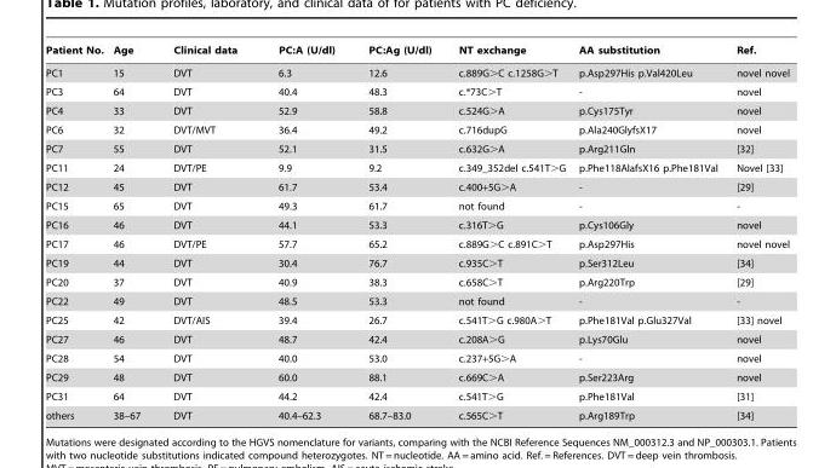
<table><thead><tr><td>Patient No.</td><td>Age</td><td>Clinical data</td><td>PC:A (U/dl)</td><td>PC:Ag (U/dl)</td><td>NT exchange</td><td>AA substitution</td><td>Ref.</td></tr></thead><tbody><tr><td>PC1</td><td>15</td><td>DVT</td><td>6.3</td><td>12.6</td><td>c.889G&gt;C c.1258G&gt;T</td><td>p.Asp297His p.Val420Leu</td><td>novel novel</td></tr><tr><td>PC3</td><td>64</td><td>DVT</td><td>40.4</td><td>48.3</td><td>c.*73C&gt;T</td><td>-</td><td>novel</td></tr><tr><td>PC4</td><td>33</td><td>DVT</td><td>52.9</td><td>58.8</td><td>c.524G&gt;A</td><td>p.Cys175Tyr</td><td>novel</td></tr><tr><td>PC6</td><td>32</td><td>DVT/MVT</td><td>36.4</td><td>49.2</td><td>c.716dupG</td><td>p.Ala240GlyfsX17</td><td>novel</td></tr><tr><td>PC7</td><td>55</td><td>DVT</td><td>52.1</td><td>31.5</td><td>c.632G&gt;A</td><td>p.Arg211Gln</td><td>[32]</td></tr><tr><td>PC11</td><td>24</td><td>DVT/PE</td><td>9.9</td><td>9.2</td><td>c.349_352del c.541T&gt;G</td><td>p.Phe118AlafsX16 p.Phe181Val</td><td>Novel [33]</td></tr><tr><td>PC12</td><td>45</td><td>DVT</td><td>61.7</td><td>53.4</td><td>c.400+5G&gt;A</td><td>-</td><td>[29]</td></tr><tr><td>PC15</td><td>65</td><td>DVT</td><td>49.3</td><td>61.7</td><td>not found</td><td>-</td><td>-</td></tr><tr><td>PC16</td><td>46</td><td>DVT</td><td>44.1</td><td>53.3</td><td>c.316T&gt;G</td><td>p.Cys106Gly</td><td>novel</td></tr><tr><td>PC17</td><td>46</td><td>DVT/PE</td><td>57.7</td><td>65.2</td><td>c.889G&gt;C c.891C&gt;T</td><td>p.Asp297His</td><td>novel novel</td></tr><tr><td>PC19</td><td>44</td><td>DVT</td><td>30.4</td><td>76.7</td><td>c.935C&gt;T</td><td>p.Ser312Leu</td><td>[34]</td></tr><tr><td>PC20</td><td>37</td><td>DVT</td><td>40.9</td><td>38.3</td><td>c.658C&gt;T</td><td>p.Arg220Trp</td><td>[29]</td></tr><tr><td>PC22</td><td>49</td><td>DVT</td><td>48.5</td><td>53.3</td><td>not found</td><td>-</td><td>-</td></tr><tr><td>PC25</td><td>42</td><td>DVT/AIS</td><td>39.4</td><td>26.7</td><td>c.541T&gt;G c.980A&gt;T</td><td>p.Phe181Val p.Glu327Val</td><td>[33] novel</td></tr><tr><td>PC27</td><td>46</td><td>DVT</td><td>48.7</td><td>42.4</td><td>c.208A&gt;G</td><td>p.Lys70Glu</td><td>novel</td></tr><tr><td>PC28</td><td>54</td><td>DVT</td><td>40.0</td><td>53.0</td><td>c.237+5G&gt;A</td><td>-</td><td>novel</td></tr><tr><td>PC29</td><td>48</td><td>DVT</td><td>60.0</td><td>88.1</td><td>c.669C&gt;A</td><td>p.Ser223Arg</td><td>novel</td></tr><tr><td>PC31</td><td>64</td><td>DVT</td><td>44.2</td><td>42.4</td><td>c.541T&gt;G</td><td>p.Phe181Val</td><td>[31]</td></tr><tr><td>others</td><td>38–67</td><td>DVT</td><td>40.4–62.3</td><td>68.7–83.0</td><td>c.565C&gt;T</td><td>p.Arg189Trp</td><td>[34]</td></tr></tbody></table>